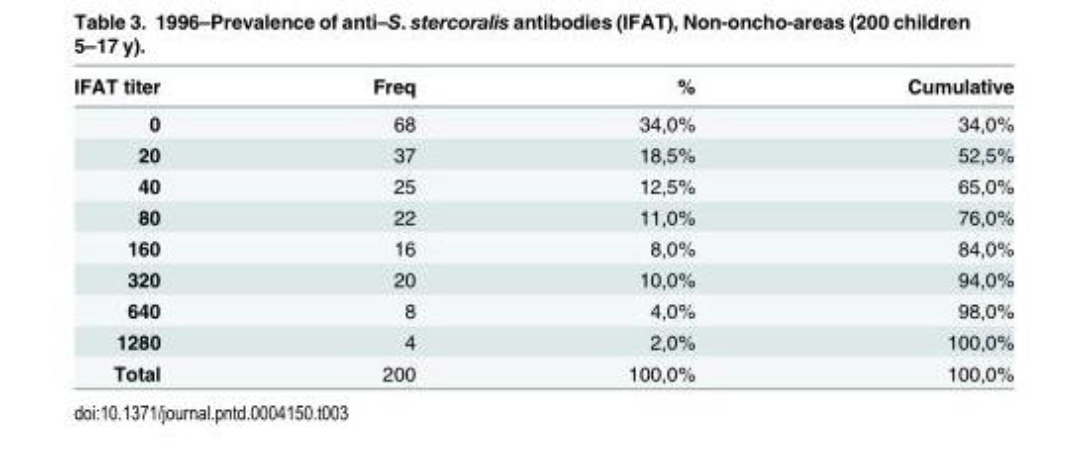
<table><thead><tr><td>IFAT titer</td><td>Freq</td><td>%</td><td>Cumulative</td></tr></thead><tbody><tr><td>0</td><td>68</td><td>34,0%</td><td>34,0%</td></tr><tr><td>20</td><td>37</td><td>18,5%</td><td>52,5%</td></tr><tr><td>40</td><td>25</td><td>12,5%</td><td>65,0%</td></tr><tr><td>80</td><td>22</td><td>11,0%</td><td>76,0%</td></tr><tr><td>160</td><td>16</td><td>8,0%</td><td>84,0%</td></tr><tr><td>320</td><td>20</td><td>10,0%</td><td>94,0%</td></tr><tr><td>640</td><td>8</td><td>4,0%</td><td>98,0%</td></tr><tr><td>1280</td><td>4</td><td>2,0%</td><td>100,0%</td></tr><tr><td>Total</td><td>200</td><td>100,0%</td><td>100,0%</td></tr></tbody></table>